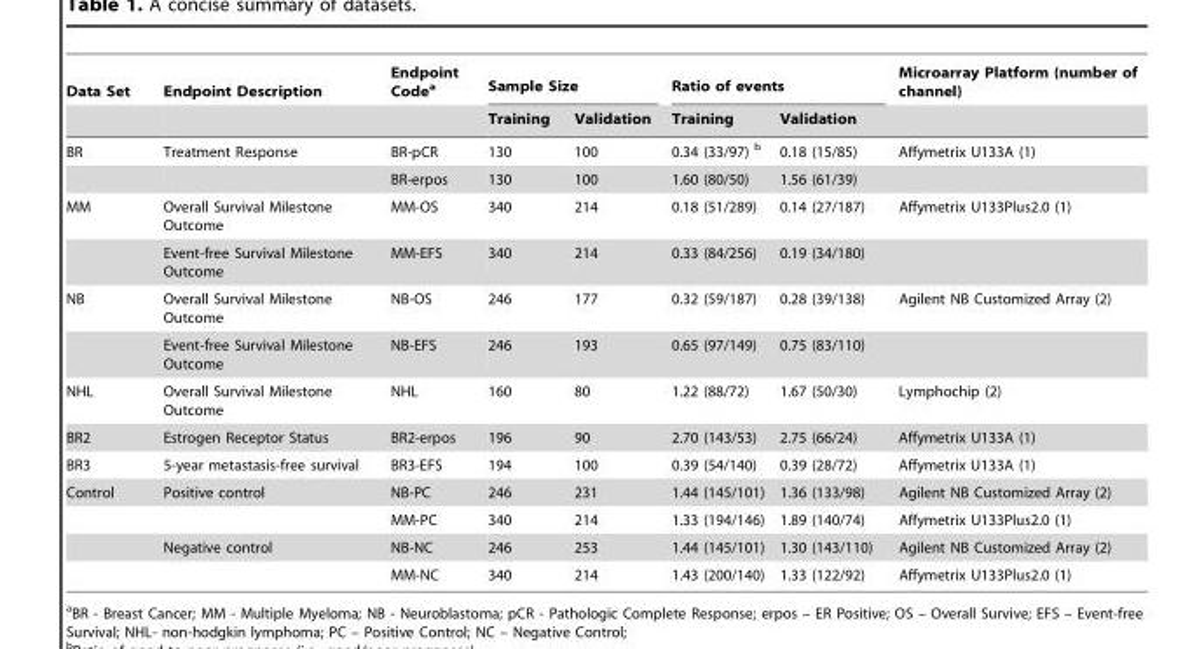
<table><thead><tr><td rowspan="2">Data Set</td><td rowspan="2">Endpoint Description</td><td rowspan="2">Endpoint Code<sup>a</sup></td><td colspan="2">Sample Size</td><td colspan="2">Ratio of events</td><td rowspan="2">Microarray Platform (number of channel)</td></tr><tr><td>Training</td><td>Validation</td><td>Training</td><td>Validation</td></tr></thead><tbody><tr><td rowspan="2">BR</td><td>Treatment Response</td><td>BR-pCR</td><td>130</td><td>100</td><td>0.34 (33/97) b</td><td>0.18 (15/85)</td><td>Affymetrix U133A (1)</td></tr><tr><td></td><td>BR-erpos</td><td>130</td><td>100</td><td>1.60 (80/50)</td><td>1.56 (61/39)</td><td></td></tr><tr><td rowspan="2">MM</td><td>Overall Survival Milestone Outcome</td><td>MM-OS</td><td>340</td><td>214</td><td>0.18 (51/289)</td><td>0.14 (27/187)</td><td>Affymetrix U133Plus2.0 (1)</td></tr><tr><td>Event-free Survival Milestone Outcome</td><td>MM-EFS</td><td>340</td><td>214</td><td>0.33 (84/256)</td><td>0.19 (34/180)</td><td></td></tr><tr><td rowspan="2">NB</td><td>Overall Survival Milestone Outcome</td><td>NB-OS</td><td>246</td><td>177</td><td>0.32 (59/187)</td><td>0.28 (39/138)</td><td>Agilent NB Customized Array (2)</td></tr><tr><td>Event-free Survival Milestone Outcome</td><td>NB-EFS</td><td>246</td><td>193</td><td>0.65 (97/149)</td><td>0.75 (83/110)</td><td></td></tr><tr><td>NHL</td><td>Overall Survival Milestone Outcome</td><td>NHL</td><td>160</td><td>80</td><td>1.22 (88/72)</td><td>1.67 (50/30)</td><td>Lymphochip (2)</td></tr><tr><td>BR2</td><td>Estrogen Receptor Status</td><td>BR2-erpos</td><td>196</td><td>90</td><td>2.70 (143/53)</td><td>2.75 (66/24)</td><td>Affymetrix U133A (1)</td></tr><tr><td>BR3</td><td>5-year metastasis-free survival</td><td>BR3-EFS</td><td>194</td><td>100</td><td>0.39 (54/140)</td><td>0.39 (28/72)</td><td>Affymetrix U133A (1)</td></tr><tr><td rowspan="4">Control</td><td>Positive control</td><td>NB-PC</td><td>246</td><td>231</td><td>1.44 (145/101)</td><td>1.36 (133/98)</td><td>Agilent NB Customized Array (2)</td></tr><tr><td></td><td>MM-PC</td><td>340</td><td>214</td><td>1.33 (194/146)</td><td>1.89 (140/74)</td><td>Affymetrix U133Plus2.0 (1)</td></tr><tr><td>Negative control</td><td>NB-NC</td><td>246</td><td>253</td><td>1.44 (145/101)</td><td>1.30 (143/110)</td><td>Agilent NB Customized Array (2)</td></tr><tr><td></td><td>MM-NC</td><td>340</td><td>214</td><td>1.43 (200/140)</td><td>1.33 (122/92)</td><td>Affymetrix U133Plus2.0 (1)</td></tr></tbody></table>